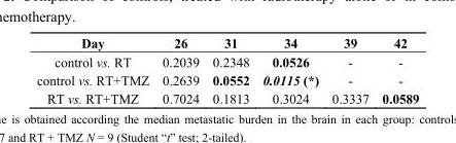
<table><thead><tr><td>Day</td><td>26</td><td>31</td><td>34</td><td>39</td><td>42</td></tr></thead><tbody><tr><td>control vs. RT</td><td>0.2039</td><td>0.2348</td><td>0.0526</td><td>-</td><td>-</td></tr><tr><td>control vs. RT+TMZ</td><td>0.2639</td><td>0.0552</td><td>0.0115 (*)</td><td>-</td><td>-</td></tr><tr><td>RT vs. RT+TMZ</td><td>0.7024</td><td>0.1813</td><td>0.3024</td><td>0.3337</td><td>0.0589</td></tr></tbody></table>